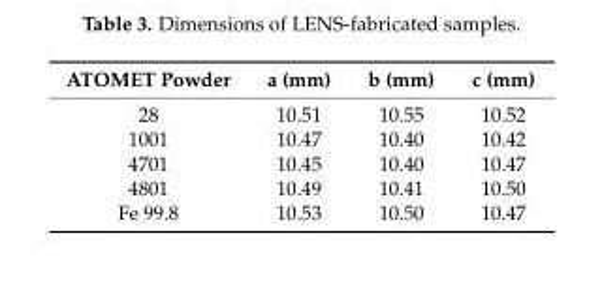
<table><thead><tr><td>ATOMET Powder</td><td>a (mm)</td><td>b (mm)</td><td>c (mm)</td></tr></thead><tbody><tr><td>28</td><td>10.51</td><td>10.55</td><td>10.52</td></tr><tr><td>1001</td><td>10.47</td><td>10.40</td><td>10.42</td></tr><tr><td>4701</td><td>10.45</td><td>10.40</td><td>10.47</td></tr><tr><td>4801</td><td>10.49</td><td>10.41</td><td>10.50</td></tr><tr><td>Fe 99.8</td><td>10.53</td><td>10.50</td><td>10.47</td></tr></tbody></table>